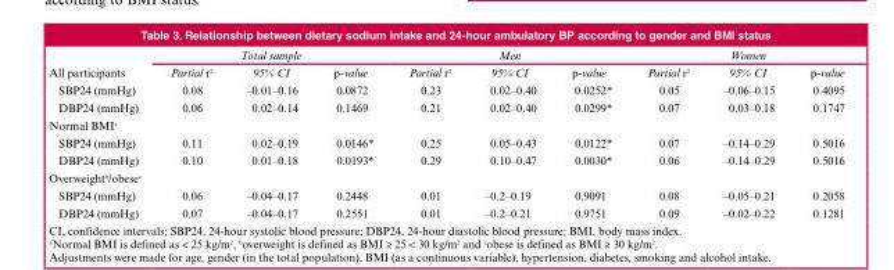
<table><thead><tr><td rowspan="2">All participants</td><td colspan="3">Total sample</td><td colspan="3">Men</td><td colspan="3">Women</td></tr><tr><td>Partial r2</td><td>95% CI</td><td>p-value</td><td>Partial r2</td><td>95% CI</td><td>p-value</td><td>Partial r2</td><td>95% CI</td><td>p-value</td></tr></thead><tbody><tr><td>SBP24 (mmHg)</td><td>0.08</td><td>–0.01–0.16</td><td>0.0872</td><td>0.23</td><td>0.02–0.40</td><td>0.0252*</td><td>0.05</td><td>–0.06–0.15</td><td>0.4095</td></tr><tr><td>DBP24 (mmHg)</td><td>0.06</td><td>0.02–0.14</td><td>0.1469</td><td>0.21</td><td>0.02–0.40</td><td>0.0299*</td><td>0.07</td><td>0.03–0.18</td><td>0.1747</td></tr><tr><td colspan="10">Normal BMIa</td></tr><tr><td>SBP24 (mmHg)</td><td>0.11</td><td>0.02–0.19</td><td>0.0146*</td><td>0.25</td><td>0.05–0.43</td><td>0.0122*</td><td>0.07</td><td>–0.14–0.29</td><td>0.5016</td></tr><tr><td>DBP24 (mmHg)</td><td>0.10</td><td>0.01–0.18</td><td>0.0193*</td><td>0.29</td><td>0.10–0.47</td><td>0.0030*</td><td>0.06</td><td>–0.14–0.29</td><td>0.5016</td></tr><tr><td colspan="10">Overweightb/obesec</td></tr><tr><td>SBP24 (mmHg)</td><td>0.06</td><td>–0.04–0.17</td><td>0.2448</td><td>0.01</td><td>–0.2–0.19</td><td>0.9091</td><td>0.08</td><td>–0.05–0.21</td><td>0.2058</td></tr><tr><td>DBP24 (mmHg)</td><td>0.07</td><td>–0.04–0.17</td><td>0.2551</td><td>0.01</td><td>–0.2–0.21</td><td>0.9751</td><td>0.09</td><td>–0.02–0.22</td><td>0.1281</td></tr></tbody></table>